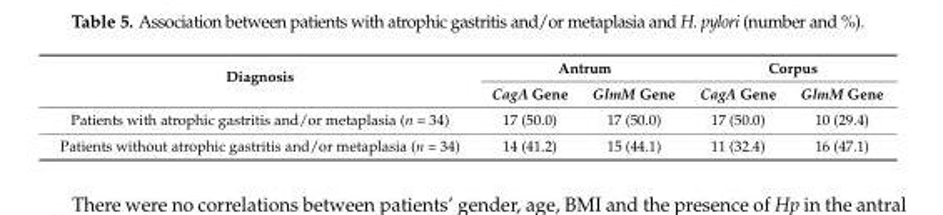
<table><thead><tr><td rowspan="2">Diagnosis</td><td colspan="2">Antrum</td><td colspan="2">Corpus</td></tr><tr><td>CagA Gene</td><td>GlmM Gene</td><td>CagA Gene</td><td>GlmM Gene</td></tr></thead><tbody><tr><td>Patients with atrophic gastritis and/or metaplasia (n = 34)</td><td>17 (50.0)</td><td>17 (50.0)</td><td>17 (50.0)</td><td>10 (29.4)</td></tr><tr><td>Patients without atrophic gastritis and/or metaplasia (n = 34)</td><td>14 (41.2)</td><td>15 (44.1)</td><td>11 (32.4)</td><td>16 (47.1)</td></tr></tbody></table>